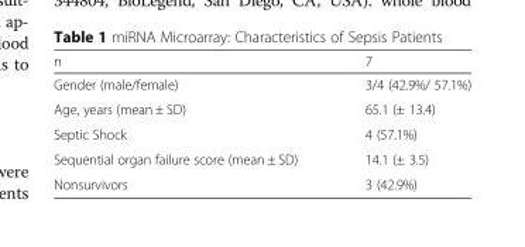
<table><thead><tr><td>n</td><td>7</td></tr></thead><tbody><tr><td>Gender (male/female)</td><td>3/4 (42.9%/ 57.1%)</td></tr><tr><td>Age, years (mean ± SD)</td><td>65.1 (± 13.4)</td></tr><tr><td>Septic Shock</td><td>4 (57.1%)</td></tr><tr><td>Sequential organ failure score (mean ± SD)</td><td>14.1 (± 3.5)</td></tr><tr><td>Nonsurvivors</td><td>3 (42.9%)</td></tr></tbody></table>